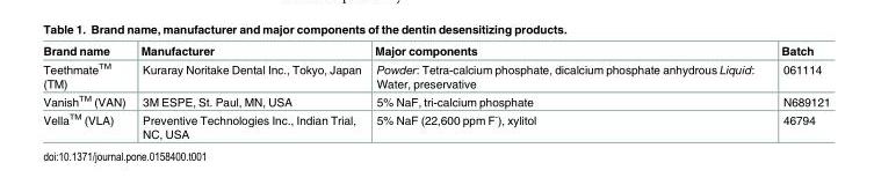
<table><thead><tr><td>Brand name</td><td>Manufacturer</td><td>Major components</td><td>Batch</td></tr></thead><tbody><tr><td>Teethmate<sup>TM</sup> (TM)</td><td>Kuraray Noritake Dental Inc., Tokyo, Japan</td><td>Powder: Tetra-calcium phosphate, dicalcium phosphate anhydrous Liquid: Water, preservative</td><td>061114</td></tr><tr><td>Vanish<sup>TM</sup> (VAN)</td><td>3M ESPE, St. Paul, MN, USA</td><td>5% NaF, tri-calcium phosphate</td><td>N689121</td></tr><tr><td>Vella<sup>TM</sup> (VLA)</td><td>Preventive Technologies Inc., Indian Trial, NC, USA</td><td>5% NaF (22,600 ppm F<sup>-</sup>), xylitol</td><td>46794</td></tr></tbody></table>